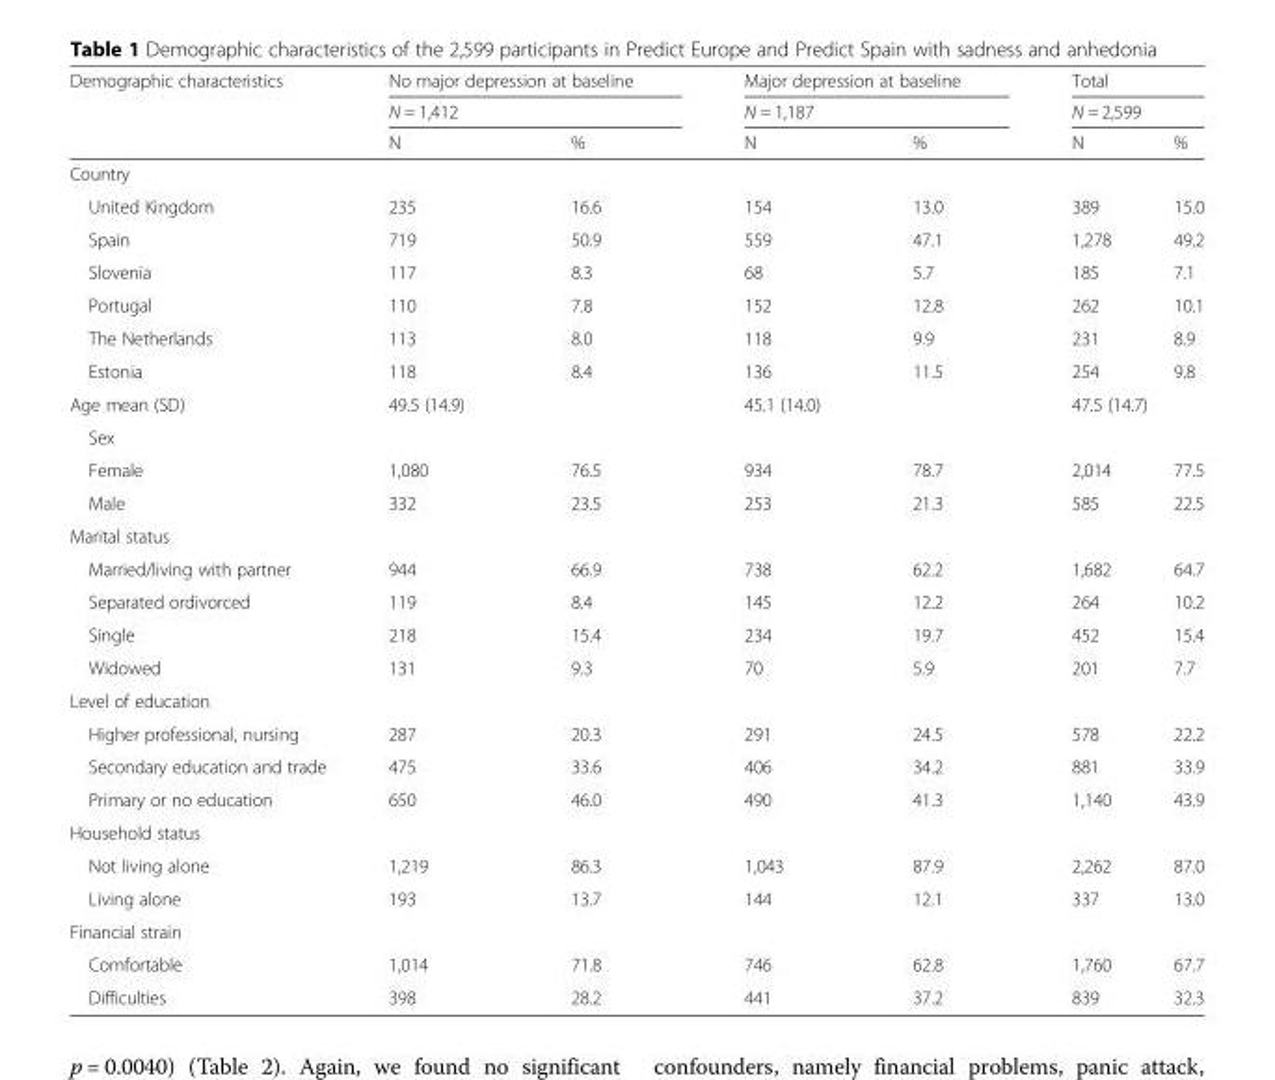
<table><thead><tr><td rowspan="3">Demographic characteristics</td><td rowspan="2" colspan="2">No major depression at baseline N = 1,412</td><td rowspan="2" colspan="2">Major depression at baseline N = 1,187</td><td rowspan="2" colspan="2">Total N = 2,599</td></tr><tr></tr><tr><td>N</td><td>%</td><td>N</td><td>%</td><td>N</td><td>%</td></tr></thead><tbody><tr><td colspan="7">Country</td></tr><tr><td>United Kingdom</td><td>235</td><td>16.6</td><td>154</td><td>13.0</td><td>389</td><td>15.0</td></tr><tr><td>Spain</td><td>719</td><td>50.9</td><td>559</td><td>47.1</td><td>1,278</td><td>49.2</td></tr><tr><td>Slovenia</td><td>117</td><td>8.3</td><td>68</td><td>5.7</td><td>185</td><td>7.1</td></tr><tr><td>Portugal</td><td>110</td><td>7.8</td><td>152</td><td>12.8</td><td>262</td><td>10.1</td></tr><tr><td>The Netherlands</td><td>113</td><td>8.0</td><td>118</td><td>9.9</td><td>231</td><td>8.9</td></tr><tr><td>Estonia</td><td>118</td><td>8.4</td><td>136</td><td>11.5</td><td>254</td><td>9.8</td></tr><tr><td>Age mean (SD)</td><td colspan="2">49.5 (14.9)</td><td colspan="2">45.1 (14.0)</td><td colspan="2">47.5 (14.7)</td></tr><tr><td colspan="7">Sex</td></tr><tr><td>Female</td><td>1,080</td><td>76.5</td><td>934</td><td>78.7</td><td>2,014</td><td>77.5</td></tr><tr><td>Male</td><td>332</td><td>23.5</td><td>253</td><td>21.3</td><td>585</td><td>22.5</td></tr><tr><td colspan="7">Marital status</td></tr><tr><td>Married/living with partner</td><td>944</td><td>66.9</td><td>738</td><td>62.2</td><td>1,682</td><td>64.7</td></tr><tr><td>Separated ordivorced</td><td>119</td><td>8.4</td><td>145</td><td>12.2</td><td>264</td><td>10.2</td></tr><tr><td>Single</td><td>218</td><td>15.4</td><td>234</td><td>19.7</td><td>452</td><td>15.4</td></tr><tr><td>Widowed</td><td>131</td><td>9.3</td><td>70</td><td>5.9</td><td>201</td><td>7.7</td></tr><tr><td colspan="7">Level of education</td></tr><tr><td>Higher professional, nursing</td><td>287</td><td>20.3</td><td>291</td><td>24.5</td><td>578</td><td>22.2</td></tr><tr><td>Secondary education and trade</td><td>475</td><td>33.6</td><td>406</td><td>34.2</td><td>881</td><td>33.9</td></tr><tr><td>Primary or no education</td><td>650</td><td>46.0</td><td>490</td><td>41.3</td><td>1,140</td><td>43.9</td></tr><tr><td colspan="7">Household status</td></tr><tr><td>Not living alone</td><td>1,219</td><td>86.3</td><td>1,043</td><td>87.9</td><td>2,262</td><td>87.0</td></tr><tr><td>Living alone</td><td>193</td><td>13.7</td><td>144</td><td>12.1</td><td>337</td><td>13.0</td></tr><tr><td colspan="7">Financial strain</td></tr><tr><td>Comfortable</td><td>1,014</td><td>71.8</td><td>746</td><td>62.8</td><td>1,760</td><td>67.7</td></tr><tr><td>Difficulties</td><td>398</td><td>28.2</td><td>441</td><td>37.2</td><td>839</td><td>32.3</td></tr></tbody></table>